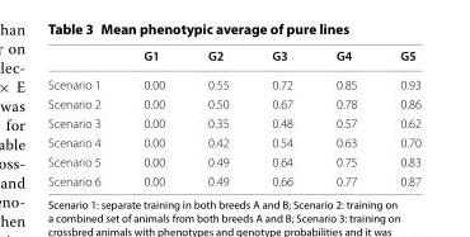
<table><thead><tr><td></td><td>G1</td><td>G2</td><td>G3</td><td>G4</td><td>G5</td></tr></thead><tbody><tr><td>Scenario 1</td><td>0.00</td><td>0.55</td><td>0.72</td><td>0.85</td><td>0.93</td></tr><tr><td>Scenario 2</td><td>0.00</td><td>0.50</td><td>0.67</td><td>0.78</td><td>0.86</td></tr><tr><td>Scenario 3</td><td>0.00</td><td>0.35</td><td>0.48</td><td>0.57</td><td>0.62</td></tr><tr><td>Scenario 4</td><td>0.00</td><td>0.42</td><td>0.54</td><td>0.63</td><td>0.70</td></tr><tr><td>Scenario 5</td><td>0.00</td><td>0.49</td><td>0.64</td><td>0.75</td><td>0.83</td></tr><tr><td>Scenario 6</td><td>0.00</td><td>0.49</td><td>0.66</td><td>0.77</td><td>0.87</td></tr></tbody></table>